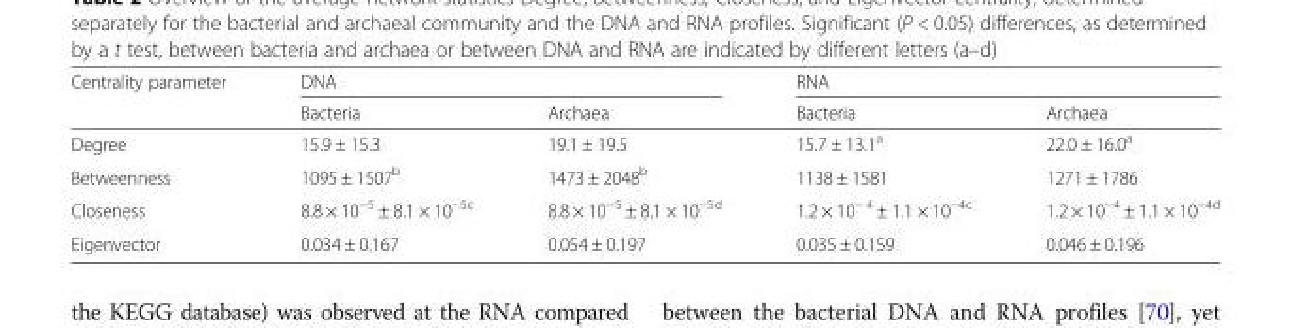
<table><thead><tr><td rowspan="2">Centrality parameter</td><td colspan="2">DNA</td><td colspan="2">RNA</td></tr><tr><td>Bacteria</td><td>Archaea</td><td>Bacteria</td><td>Archaea</td></tr></thead><tbody><tr><td>Degree</td><td>15.9 ± 15.3</td><td>19.1 ± 19.5</td><td>15.7 ± 13.1<sup>a</sup></td><td>22.0 ± 16.0<sup>a</sup></td></tr><tr><td>Betweenness</td><td>1095 ± 1507<sup>b</sup></td><td>1473 ± 2048<sup>b</sup></td><td>1138 ± 1581</td><td>1271 ± 1786</td></tr><tr><td>Closeness</td><td>8.8 × 10<sup>−5</sup> ± 8.1 × 10<sup>−5c</sup></td><td>8.8 × 10<sup>−5</sup> ± 8.1 × 10<sup>−5d</sup></td><td>1.2 × 10<sup>− 4</sup> ± 1.1 × 10<sup>−4c</sup></td><td>1.2 × 10<sup>−4</sup> ± 1.1 × 10<sup>−4d</sup></td></tr><tr><td>Eigenvector</td><td>0.034 ± 0.167</td><td>0.054 ± 0.197</td><td>0.035 ± 0.159</td><td>0.046 ± 0.196</td></tr></tbody></table>